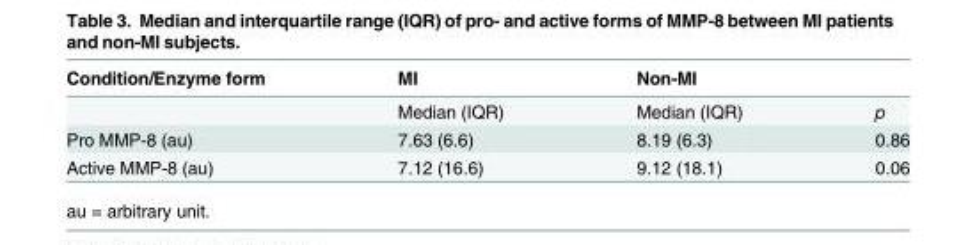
<table><thead><tr><td>Condition/Enzyme form</td><td>MI</td><td>Non-MI</td><td></td></tr></thead><tbody><tr><td></td><td>Median (IQR)</td><td>Median (IQR)</td><td>p</td></tr><tr><td>Pro MMP-8 (au)</td><td>7.63 (6.6)</td><td>8.19 (6.3)</td><td>0.86</td></tr><tr><td>Active MMP-8 (au)</td><td>7.12 (16.6)</td><td>9.12 (18.1)</td><td>0.06</td></tr></tbody></table>